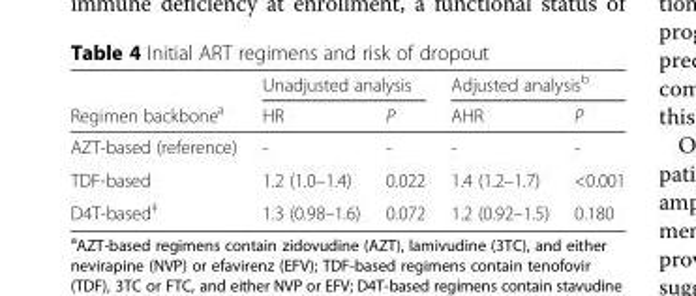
<table><thead><tr><td rowspan="2">Regimen backbone<sup>a</sup></td><td colspan="2">Unadjusted analysis</td><td colspan="2">Adjusted analysis<sup>b</sup></td></tr><tr><td>HR</td><td>P</td><td>AHR</td><td>P</td></tr></thead><tbody><tr><td>AZT-based (reference)</td><td>-</td><td>-</td><td>-</td><td>-</td></tr><tr><td>TDF-based</td><td>1.2 (1.0–1.4)</td><td>0.022</td><td>1.4 (1.2–1.7)</td><td>&lt;0.001</td></tr><tr><td>D4T-based<sup>‡</sup></td><td>1.3 (0.98–1.6)</td><td>0.072</td><td>1.2 (0.92–1.5)</td><td>0.180</td></tr></tbody></table>